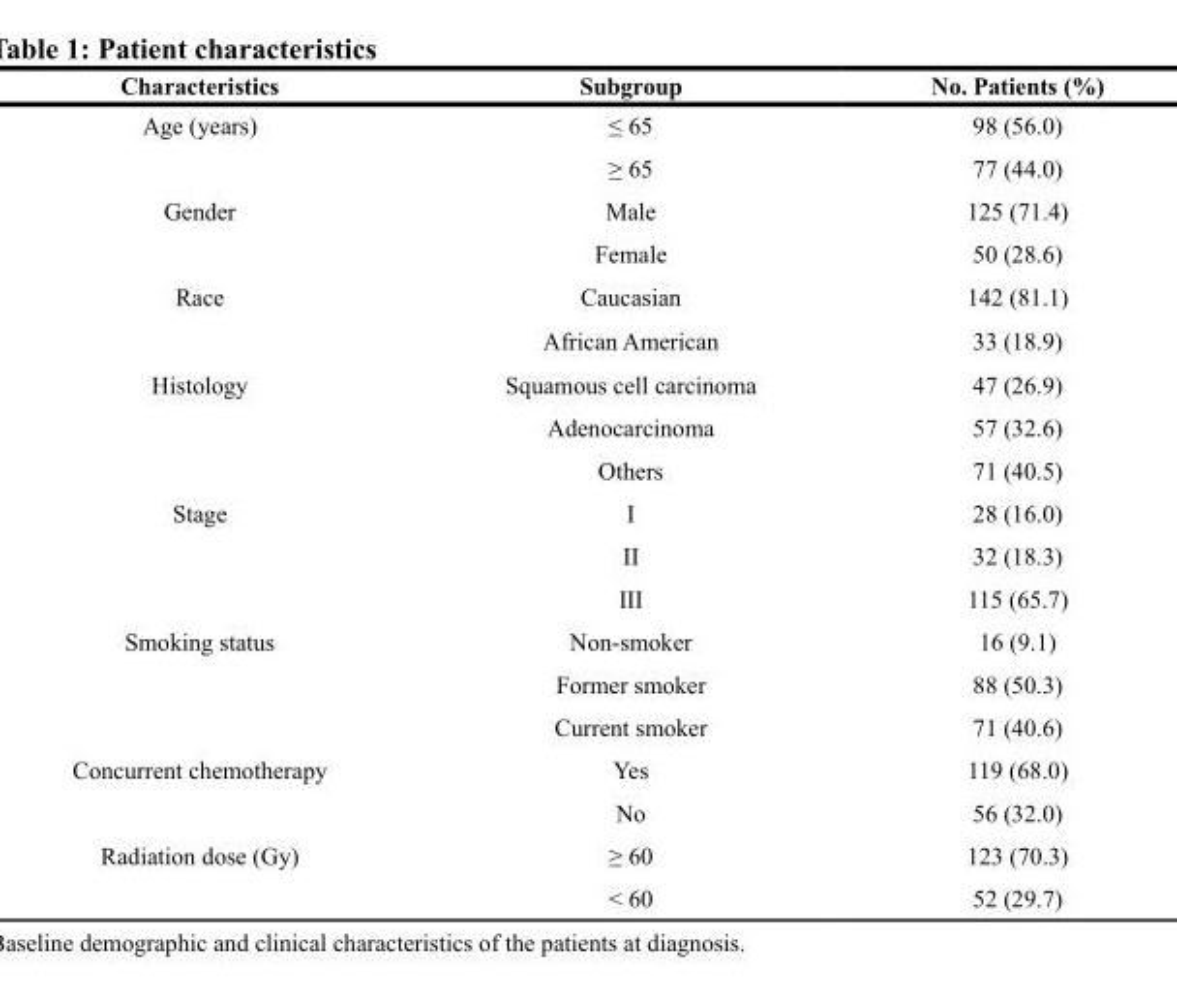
<table><thead><tr><td>Characteristics</td><td>Subgroup</td><td>No. Patients (%)</td></tr></thead><tbody><tr><td rowspan="2">Age (years)</td><td>≤ 65</td><td>98 (56.0)</td></tr><tr><td>≥ 65</td><td>77 (44.0)</td></tr><tr><td rowspan="2">Gender</td><td>Male</td><td>125 (71.4)</td></tr><tr><td>Female</td><td>50 (28.6)</td></tr><tr><td rowspan="2">Race</td><td>Caucasian</td><td>142 (81.1)</td></tr><tr><td>African American</td><td>33 (18.9)</td></tr><tr><td rowspan="3">Histology</td><td>Squamous cell carcinoma</td><td>47 (26.9)</td></tr><tr><td>Adenocarcinoma</td><td>57 (32.6)</td></tr><tr><td>Others</td><td>71 (40.5)</td></tr><tr><td rowspan="3">Stage</td><td>I</td><td>28 (16.0)</td></tr><tr><td>II</td><td>32 (18.3)</td></tr><tr><td>III</td><td>115 (65.7)</td></tr><tr><td rowspan="3">Smoking status</td><td>Non-smoker</td><td>16 (9.1)</td></tr><tr><td>Former smoker</td><td>88 (50.3)</td></tr><tr><td>Current smoker</td><td>71 (40.6)</td></tr><tr><td rowspan="2">Concurrent chemotherapy</td><td>Yes</td><td>119 (68.0)</td></tr><tr><td>No</td><td>56 (32.0)</td></tr><tr><td rowspan="2">Radiation dose (Gy)</td><td>≥ 60</td><td>123 (70.3)</td></tr><tr><td>&lt; 60</td><td>52 (29.7)</td></tr></tbody></table>